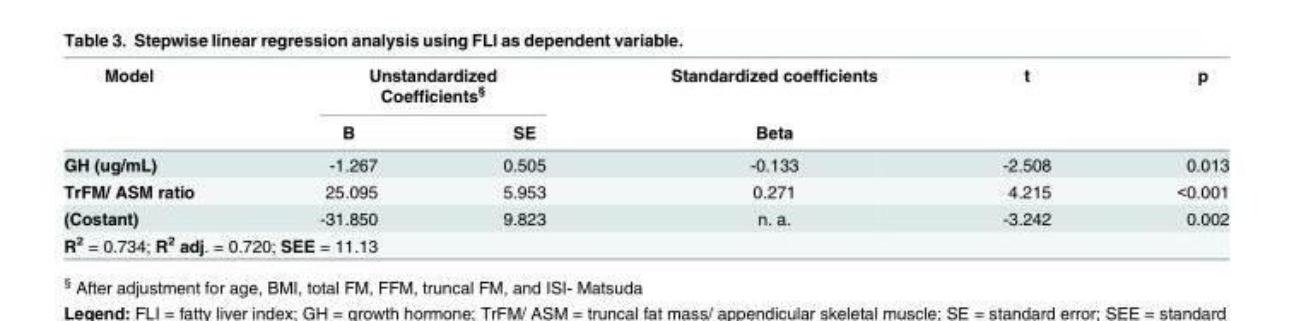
<table><thead><tr><td rowspan="2">Model</td><td colspan="2">Unstandardized Coefficients<sup>§</sup></td><td rowspan="2">Standardized coefficients Beta</td><td rowspan="2">t</td><td rowspan="2">p</td></tr><tr><td>B</td><td>SE</td></tr></thead><tbody><tr><td>GH (ug/mL)</td><td>-1.267</td><td>0.505</td><td>-0.133</td><td>-2.508</td><td>0.013</td></tr><tr><td>TrFM/ ASM ratio</td><td>25.095</td><td>5.953</td><td>0.271</td><td>4.215</td><td>&lt;0.001</td></tr><tr><td>(Costant)</td><td>-31.850</td><td>9.823</td><td>n. a.</td><td>-3.242</td><td>0.002</td></tr><tr><td colspan="6">R<sup>2</sup> = 0.734; R<sup>2</sup> adj. = 0.720; SEE = 11.13</td></tr></tbody></table>